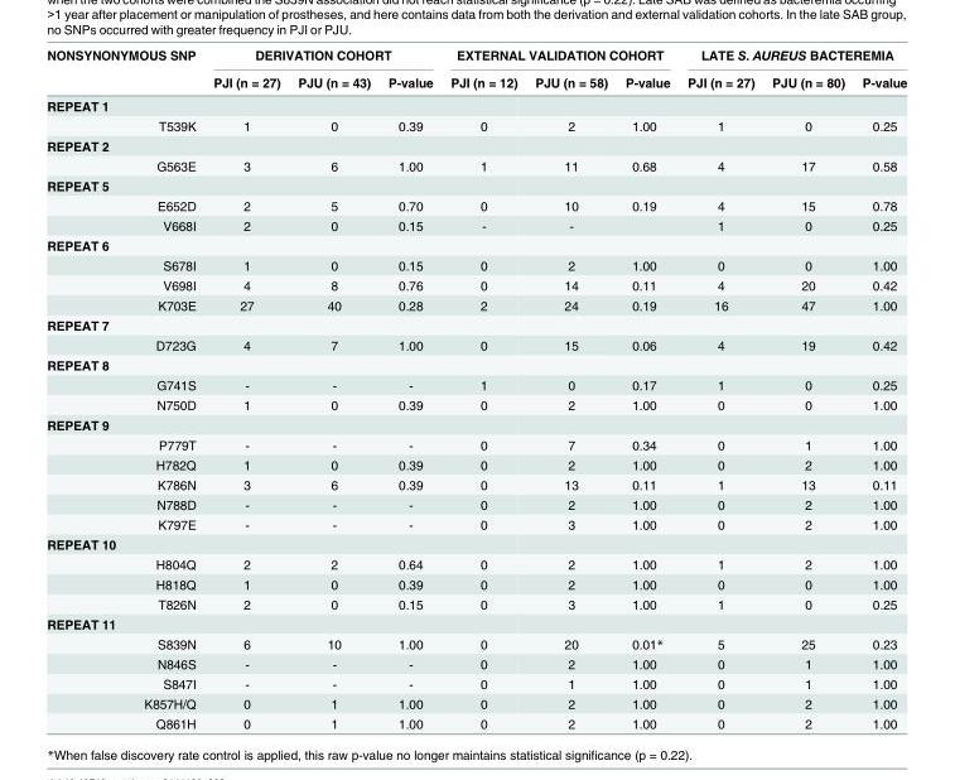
<table><thead><tr><td rowspan="2">NONSYNONYMOUS SNP</td><td colspan="3">DERIVATION COHORT</td><td colspan="3">EXTERNAL VALIDATION COHORT</td><td colspan="3">LATE S. AUREUS BACTEREMIA</td></tr><tr><td>PJI (n = 27)</td><td>PJU (n = 43)</td><td>P-value</td><td>PJI (n = 12)</td><td>PJU (n = 58)</td><td>P-value</td><td>PJI (n = 27)</td><td>PJU (n = 80)</td><td>P-value</td></tr></thead><tbody><tr><td colspan="10">REPEAT 1</td></tr><tr><td>T539K</td><td>1</td><td>0</td><td>0.39</td><td>0</td><td>2</td><td>1.00</td><td>1</td><td>0</td><td>0.25</td></tr><tr><td colspan="10">REPEAT 2</td></tr><tr><td>G563E</td><td>3</td><td>6</td><td>1.00</td><td>1</td><td>11</td><td>0.68</td><td>4</td><td>17</td><td>0.58</td></tr><tr><td colspan="10">REPEAT 5</td></tr><tr><td>E652D</td><td>2</td><td>5</td><td>0.70</td><td>0</td><td>10</td><td>0.19</td><td>4</td><td>15</td><td>0.78</td></tr><tr><td>V668I</td><td>2</td><td>0</td><td>0.15</td><td>-</td><td>-</td><td></td><td>1</td><td>0</td><td>0.25</td></tr><tr><td colspan="10">REPEAT 6</td></tr><tr><td>S678I</td><td>1</td><td>0</td><td>0.15</td><td>0</td><td>2</td><td>1.00</td><td>0</td><td>0</td><td>1.00</td></tr><tr><td>V698I</td><td>4</td><td>8</td><td>0.76</td><td>0</td><td>14</td><td>0.11</td><td>4</td><td>20</td><td>0.42</td></tr><tr><td>K703E</td><td>27</td><td>40</td><td>0.28</td><td>2</td><td>24</td><td>0.19</td><td>16</td><td>47</td><td>1.00</td></tr><tr><td colspan="10">REPEAT 7</td></tr><tr><td>D723G</td><td>4</td><td>7</td><td>1.00</td><td>0</td><td>15</td><td>0.06</td><td>4</td><td>19</td><td>0.42</td></tr><tr><td colspan="10">REPEAT 8</td></tr><tr><td>G741S</td><td>-</td><td>-</td><td>-</td><td>1</td><td>0</td><td>0.17</td><td>1</td><td>0</td><td>0.25</td></tr><tr><td>N750D</td><td>1</td><td>0</td><td>0.39</td><td>0</td><td>2</td><td>1.00</td><td>0</td><td>0</td><td>1.00</td></tr><tr><td colspan="10">REPEAT 9</td></tr><tr><td>P779T</td><td>-</td><td>-</td><td>-</td><td>0</td><td>7</td><td>0.34</td><td>0</td><td>1</td><td>1.00</td></tr><tr><td>H782Q</td><td>1</td><td>0</td><td>0.39</td><td>0</td><td>2</td><td>1.00</td><td>0</td><td>2</td><td>1.00</td></tr><tr><td>K786N</td><td>3</td><td>6</td><td>0.39</td><td>0</td><td>13</td><td>0.11</td><td>1</td><td>13</td><td>0.11</td></tr><tr><td>N788D</td><td>-</td><td>-</td><td>-</td><td>0</td><td>2</td><td>1.00</td><td>0</td><td>2</td><td>1.00</td></tr><tr><td>K797E</td><td>-</td><td>-</td><td>-</td><td>0</td><td>3</td><td>1.00</td><td>0</td><td>2</td><td>1.00</td></tr><tr><td colspan="10">REPEAT 10</td></tr><tr><td>H804Q</td><td>2</td><td>2</td><td>0.64</td><td>0</td><td>2</td><td>1.00</td><td>1</td><td>2</td><td>1.00</td></tr><tr><td>H818Q</td><td>1</td><td>0</td><td>0.39</td><td>0</td><td>2</td><td>1.00</td><td>0</td><td>0</td><td>1.00</td></tr><tr><td>T826N</td><td>2</td><td>0</td><td>0.15</td><td>0</td><td>3</td><td>1.00</td><td>1</td><td>0</td><td>0.25</td></tr><tr><td colspan="10">REPEAT 11</td></tr><tr><td>S839N</td><td>6</td><td>10</td><td>1.00</td><td>0</td><td>20</td><td>0.01*</td><td>5</td><td>25</td><td>0.23</td></tr><tr><td>N846S</td><td>-</td><td>-</td><td>-</td><td>0</td><td>2</td><td>1.00</td><td>0</td><td>1</td><td>1.00</td></tr><tr><td>S847I</td><td>-</td><td>-</td><td>-</td><td>0</td><td>1</td><td>1.00</td><td>0</td><td>1</td><td>1.00</td></tr><tr><td>K857H/Q</td><td>0</td><td>1</td><td>1.00</td><td>0</td><td>2</td><td>1.00</td><td>0</td><td>2</td><td>1.00</td></tr><tr><td>Q861H</td><td>0</td><td>1</td><td>1.00</td><td>0</td><td>2</td><td>1.00</td><td>0</td><td>2</td><td>1.00</td></tr></tbody></table>